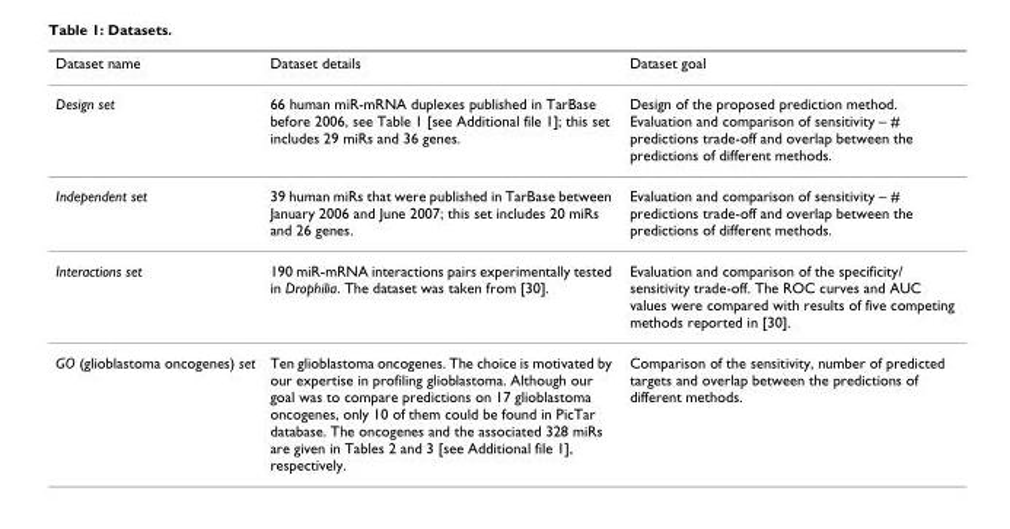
<table><thead><tr><td>Dataset name</td><td>Dataset details</td><td>Dataset goal</td></tr></thead><tbody><tr><td>Design set</td><td>66 human miR-mRNA duplexes published in TarBase before 2006, see Table 1 [see Additional file 1]; this set includes 29 miRs and 36 genes.</td><td>Design of the proposed prediction method. Evaluation and comparison of sensitivity – # predictions trade-off and overlap between the predictions of different methods.</td></tr><tr><td>Independent set</td><td>39 human miRs that were published in TarBase between January 2006 and June 2007; this set includes 20 miRs and 26 genes.</td><td>Evaluation and comparison of sensitivity – # predictions trade-off and overlap between the predictions of different methods.</td></tr><tr><td>Interactions set</td><td>190 miR-mRNA interactions pairs experimentally tested in Drophilia. The dataset was taken from [30].</td><td>Evaluation and comparison of the specificity/ sensitivity trade-off. The ROC curves and AUC values were compared with results of five competing methods reported in [30].</td></tr><tr><td>GO (glioblastoma oncogenes) set</td><td>Ten glioblastoma oncogenes. The choice is motivated by our expertise in profiling glioblastoma. Although our goal was to compare predictions on 17 glioblastoma oncogenes, only 10 of them could be found in PicTar database. The oncogenes and the associated 328 miRs are given in Tables 2 and 3 [see Additional file 1], respectively.</td><td>Comparison of the sensitivity, number of predicted targets and overlap between the predictions of different methods.</td></tr></tbody></table>